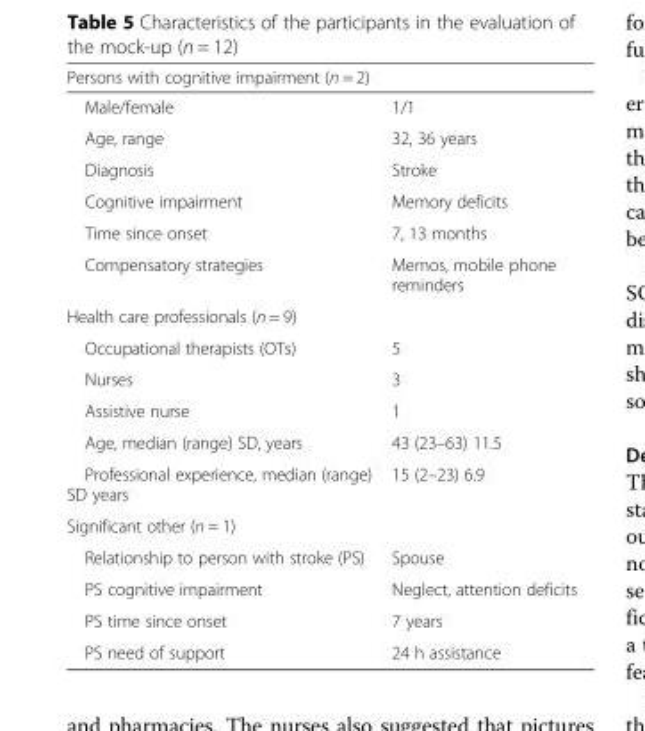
<table><thead><tr><td>Persons with cognitive impairment (n = 2)</td><td></td></tr></thead><tbody><tr><td>Male/female</td><td>1/1</td></tr><tr><td>Age, range</td><td>32, 36 years</td></tr><tr><td>Diagnosis</td><td>Stroke</td></tr><tr><td>Cognitive impairment</td><td>Memory deficits</td></tr><tr><td>Time since onset</td><td>7, 13 months</td></tr><tr><td>Compensatory strategies</td><td>Memos, mobile phone reminders</td></tr><tr><td colspan="2">Health care professionals (n = 9)</td></tr><tr><td>Occupational therapists (OTs)</td><td>5</td></tr><tr><td>Nurses</td><td>3</td></tr><tr><td>Assistive nurse</td><td>1</td></tr><tr><td>Age, median (range) SD, years</td><td>43 (23–63) 11.5</td></tr><tr><td>Professional experience, median (range) SD years</td><td>15 (2–23) 6.9</td></tr><tr><td colspan="2">Significant other (n = 1)</td></tr><tr><td>Relationship to person with stroke (PS)</td><td>Spouse</td></tr><tr><td>PS cognitive impairment</td><td>Neglect, attention deficits</td></tr><tr><td>PS time since onset</td><td>7 years</td></tr><tr><td>PS need of support</td><td>24 h assistance</td></tr></tbody></table>